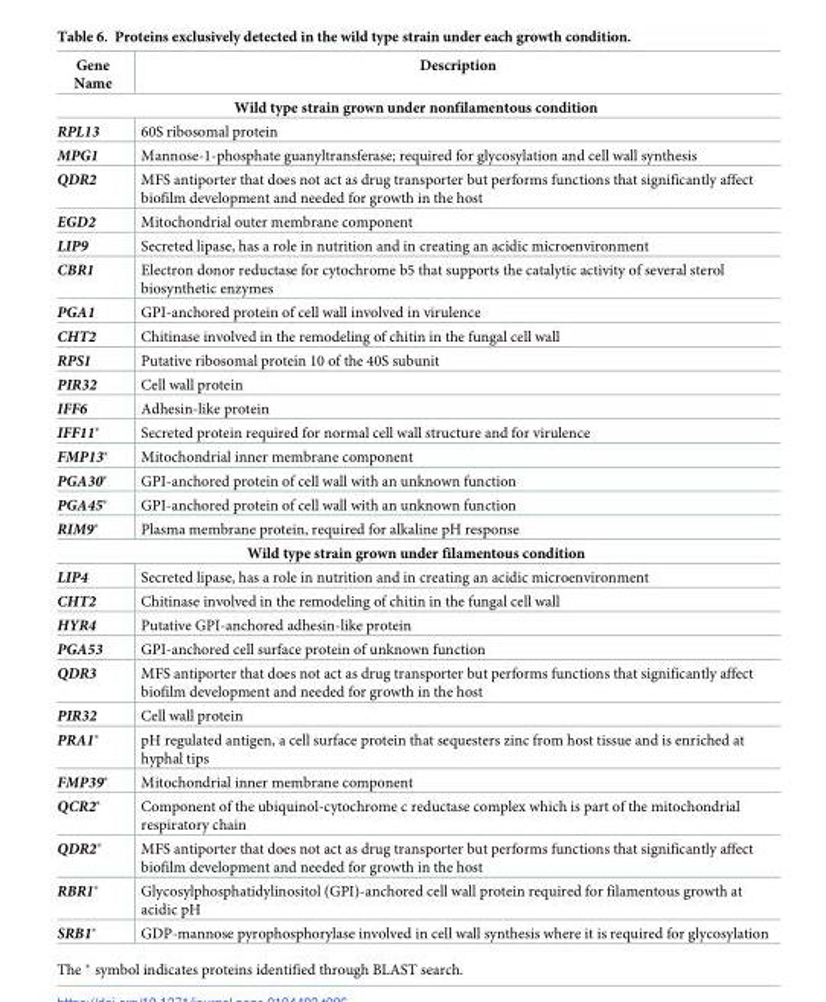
<table><thead><tr><td>Gene Name</td><td>Description</td></tr></thead><tbody><tr><td colspan="2">Wild type strain grown under nonfilamentous condition</td></tr><tr><td>RPL13</td><td>60S ribosomal protein</td></tr><tr><td>MPG1</td><td>Mannose-1-phosphate guanyltransferase; required for glycosylation and cell wall synthesis</td></tr><tr><td>QDR2</td><td>MFS antiporter that does not act as drug transporter but performs functions that significantly affect biofilm development and needed for growth in the host</td></tr><tr><td>EGD2</td><td>Mitochondrial outer membrane component</td></tr><tr><td>LIP9</td><td>Secreted lipase, has a role in nutrition and in creating an acidic microenvironment</td></tr><tr><td>CBR1</td><td>Electron donor reductase for cytochrome b5 that supports the catalytic activity of several sterol biosynthetic enzymes</td></tr><tr><td>PGA1</td><td>GPI-anchored protein of cell wall involved in virulence</td></tr><tr><td>CHT2</td><td>Chitinase involved in the remodeling of chitin in the fungal cell wall</td></tr><tr><td>RPS1</td><td>Putative ribosomal protein 10 of the 40S subunit</td></tr><tr><td>PIR32</td><td>Cell wall protein</td></tr><tr><td>IFF6</td><td>Adhesin-like protein</td></tr><tr><td>IFF11*</td><td>Secreted protein required for normal cell wall structure and for virulence</td></tr><tr><td>FMP13*</td><td>Mitochondrial inner membrane component</td></tr><tr><td>PGA30*</td><td>GPI-anchored protein of cell wall with an unknown function</td></tr><tr><td>PGA45*</td><td>GPI-anchored protein of cell wall with an unknown function</td></tr><tr><td>RIM9*</td><td>Plasma membrane protein, required for alkaline pH response</td></tr><tr><td colspan="2">Wild type strain grown under filamentous condition</td></tr><tr><td>LIP4</td><td>Secreted lipase, has a role in nutrition and in creating an acidic microenvironment</td></tr><tr><td>CHT2</td><td>Chitinase involved in the remodeling of chitin in the fungal cell wall</td></tr><tr><td>HYR4</td><td>Putative GPI-anchored adhesin-like protein</td></tr><tr><td>PGA53</td><td>GPI-anchored cell surface protein of unknown function</td></tr><tr><td>QDR3</td><td>MFS antiporter that does not act as drug transporter but performs functions that significantly affect biofilm development and needed for growth in the host</td></tr><tr><td>PIR32</td><td>Cell wall protein</td></tr><tr><td>PRA1*</td><td>pH regulated antigen, a cell surface protein that sequesters zinc from host tissue and is enriched at hyphal tips</td></tr><tr><td>FMP39*</td><td>Mitochondrial inner membrane component</td></tr><tr><td>QCR2*</td><td>Component of the ubiquinol-cytochrome c reductase complex which is part of the mitochondrial respiratory chain</td></tr><tr><td>QDR2*</td><td>MFS antiporter that does not act as drug transporter but performs functions that significantly affect biofilm development and needed for growth in the host</td></tr><tr><td>RBR1*</td><td>Glycosylphosphatidylinositol (GPI)-anchored cell wall protein required for filamentous growth at acidic pH</td></tr><tr><td>SRB1*</td><td>GDP-mannose pyrophosphorylase involved in cell wall synthesis where it is required for glycosylation</td></tr></tbody></table>